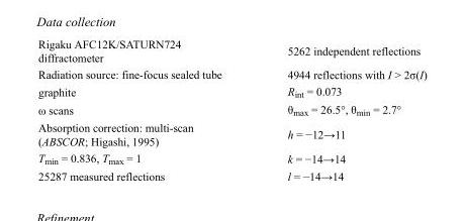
<table><tbody><tr><td>Rigaku AFC12K/SATURN724 diffractometer</td><td>5262 independent reflections</td></tr><tr><td>Radiation source: fine-focus sealed tube</td><td>4944 reflections with I &gt; 2σ(I)</td></tr><tr><td>graphite</td><td>R<sub>int</sub> = 0.073</td></tr><tr><td>ω scans</td><td>θ<sub>max</sub> = 26.5°, θ<sub>min</sub> = 2.7°</td></tr><tr><td>Absorption correction: multi-scan (ABSCOR; Higashi, 1995)</td><td>h = −12→11</td></tr><tr><td>T<sub>min</sub> = 0.836, T<sub>max</sub> = 1</td><td>k = −14→14</td></tr><tr><td>25287 measured reflections</td><td>l = −14→14</td></tr></tbody></table>